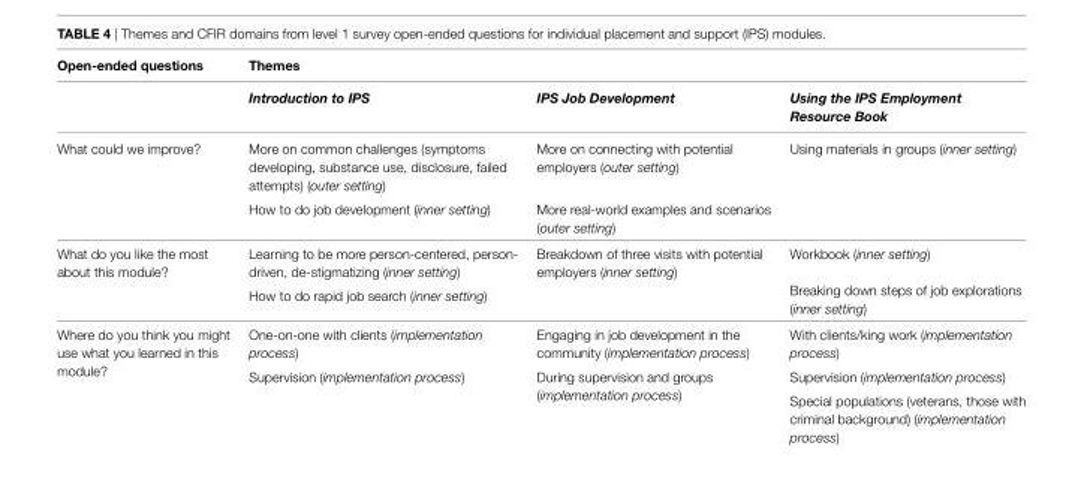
<table><thead><tr><td rowspan="2">open-ended questions</td><td colspan="3">themes</td></tr><tr><td>Introduction to IPS</td><td>IPS Job Development</td><td>Using the IPS Employment Resource Book</td></tr></thead><tbody><tr><td rowspan="2">What could we improve?</td><td>More on common challenges (symptoms developing, substance use, disclosure, failed attempts) (outer setting)</td><td>More on connecting with potential employers (outer setting)</td><td rowspan="2">Using materials in groups (inner setting)</td></tr><tr><td>How to do job development (inner setting)</td><td>More real-world examples and scenarios (outer setting)</td></tr><tr><td rowspan="2">What do you like the most about this module?</td><td>Learning to be more person-centered, person- driven, de-stigmatizing (inner setting)</td><td rowspan="2">Breakdown of three visits with potential employers (inner setting)</td><td>Workbook (inner setting)</td></tr><tr><td>How to do rapid job search (inner setting)</td><td>Breaking down steps of job explorations (inner setting)</td></tr><tr><td rowspan="3">Where do you think you might use what you learned in this module?</td><td>One-on-one with clients (implementation process)</td><td>Engaging in job development in the community (implementation process)</td><td>With clients/king work (implementation process)</td></tr><tr><td rowspan="2">Supervision (implementation process)</td><td rowspan="2">During supervision and groups (implementation process)</td><td>Supervision (implementation process)</td></tr><tr><td>Special populations (veterans, those with criminal background) (implementation process)</td></tr></tbody></table>